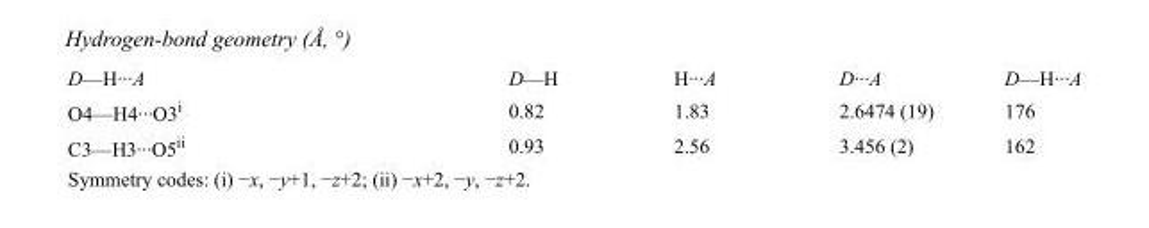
<table><tbody><tr><td>D—H···A</td><td>D—H</td><td>H···A</td><td>D···A</td><td>D—H···A</td></tr><tr><td>O4—H4···O3<sup>i</sup></td><td>0.82</td><td>1.83</td><td>2.6474 (19)</td><td>176</td></tr><tr><td>C3—H3···O5<sup>ii</sup></td><td>0.93</td><td>2.56</td><td>3.456 (2)</td><td>162</td></tr></tbody></table>